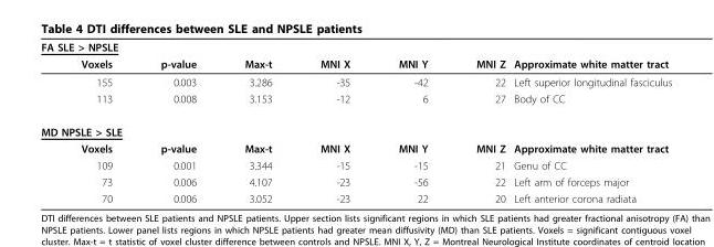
<table><thead><tr><td colspan="3">FA SLE &gt; NPSLE</td><td rowspan="2">MNI X</td><td rowspan="2">MNI Y</td><td rowspan="2">MNI Z</td><td rowspan="2">Approximate white matter tract</td></tr><tr><td>Voxels</td><td>p-value</td><td>Max-t</td></tr></thead><tbody><tr><td>155</td><td>0.003</td><td>3.286</td><td>-35</td><td>-42</td><td>22</td><td>Left superior longitudinal fasciculus</td></tr><tr><td>113</td><td>0.008</td><td>3.153</td><td>-12</td><td>6</td><td>27</td><td>Body of CC</td></tr><tr><td colspan="7">MD NPSLE &gt; SLE</td></tr><tr><td>Voxels</td><td>p-value</td><td>Max-t</td><td>MNI X</td><td>MNI Y</td><td>MNI Z</td><td>Approximate white matter tract</td></tr><tr><td>109</td><td>0.001</td><td>3.344</td><td>-15</td><td>-15</td><td>21</td><td>Genu of CC</td></tr><tr><td>73</td><td>0.006</td><td>4.107</td><td>-23</td><td>-56</td><td>22</td><td>Left arm of forceps major</td></tr><tr><td>70</td><td>0.006</td><td>3.052</td><td>-23</td><td>22</td><td>20</td><td>Left anterior corona radiata</td></tr></tbody></table>